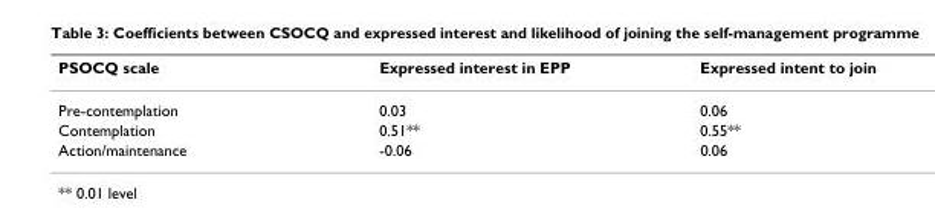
<table><thead><tr><td>PSOCQ scale</td><td>Expressed interest in EPP</td><td>Expressed intent to join</td></tr></thead><tbody><tr><td>Pre-contemplation</td><td>0.03</td><td>0.06</td></tr><tr><td>Contemplation</td><td>0.51**</td><td>0.55**</td></tr><tr><td>Action/maintenance</td><td>-0.06</td><td>0.06</td></tr></tbody></table>